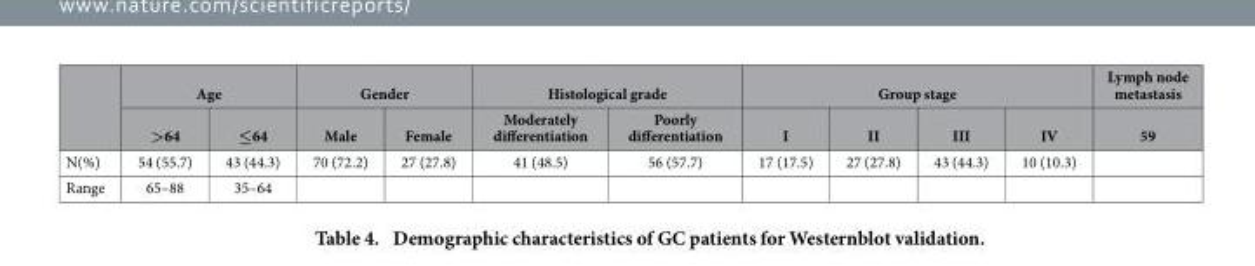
<table><thead><tr><td rowspan="2"></td><td colspan="2">Age</td><td colspan="2">Gender</td><td colspan="2">Histological grade</td><td colspan="4">Group stage</td><td rowspan="2">Lymph node metastasis 59</td></tr><tr><td>&gt;64</td><td>≤64</td><td>Male</td><td>Female</td><td>Moderately differentiation</td><td>Poorly differentiation</td><td>I</td><td>II</td><td>III</td><td>IV</td></tr></thead><tbody><tr><td>N(%)</td><td>54 (55.7)</td><td>43 (44.3)</td><td>70 (72.2)</td><td>27 (27.8)</td><td>41 (48.5)</td><td>56 (57.7)</td><td>17 (17.5)</td><td>27 (27.8)</td><td>43 (44.3)</td><td>10 (10.3)</td><td></td></tr><tr><td>Range</td><td>65–88</td><td>35–64</td><td></td><td></td><td></td><td></td><td></td><td></td><td></td><td></td><td></td></tr></tbody></table>